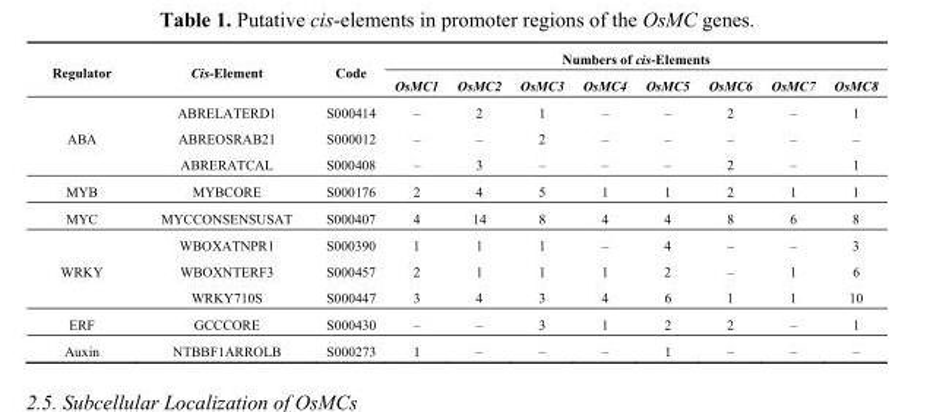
<table><thead><tr><td rowspan="2">Regulator</td><td rowspan="2">Cis-Element</td><td rowspan="2">Code</td><td colspan="8">Numbers of cis-Elements</td></tr><tr><td>OsMC1</td><td>OsMC2</td><td>OsMC3</td><td>OsMC4</td><td>OsMC5</td><td>OsMC6</td><td>OsMC7</td><td>OsMC8</td></tr></thead><tbody><tr><td rowspan="3">ABA</td><td>ABRELATERD1</td><td>S000414</td><td>–</td><td>2</td><td>1</td><td>–</td><td>–</td><td>2</td><td>–</td><td>1</td></tr><tr><td>ABREOSRAB21</td><td>S000012</td><td>–</td><td>–</td><td>2</td><td>–</td><td>–</td><td>–</td><td>–</td><td>–</td></tr><tr><td>ABRERATCAL</td><td>S000408</td><td>–</td><td>3</td><td>–</td><td>–</td><td>–</td><td>2</td><td>–</td><td>1</td></tr><tr><td>MYB</td><td>MYBCORE</td><td>S000176</td><td>2</td><td>4</td><td>5</td><td>1</td><td>1</td><td>2</td><td>1</td><td>1</td></tr><tr><td>MYC</td><td>MYCCONSENSUSAT</td><td>S000407</td><td>4</td><td>14</td><td>8</td><td>4</td><td>4</td><td>8</td><td>6</td><td>8</td></tr><tr><td rowspan="3">WRKY</td><td>WBOXATNPR1</td><td>S000390</td><td>1</td><td>1</td><td>1</td><td>–</td><td>4</td><td>–</td><td>–</td><td>3</td></tr><tr><td>WBOXNTERF3</td><td>S000457</td><td>2</td><td>1</td><td>1</td><td>1</td><td>2</td><td>–</td><td>1</td><td>6</td></tr><tr><td>WRKY710S</td><td>S000447</td><td>3</td><td>4</td><td>3</td><td>4</td><td>6</td><td>1</td><td>1</td><td>10</td></tr><tr><td>ERF</td><td>GCCCORE</td><td>S000430</td><td>–</td><td>–</td><td>3</td><td>1</td><td>2</td><td>2</td><td>–</td><td>1</td></tr><tr><td>Auxin</td><td>NTBBF1ARROLB</td><td>S000273</td><td>1</td><td>–</td><td>–</td><td>–</td><td>1</td><td>–</td><td>–</td><td>–</td></tr></tbody></table>